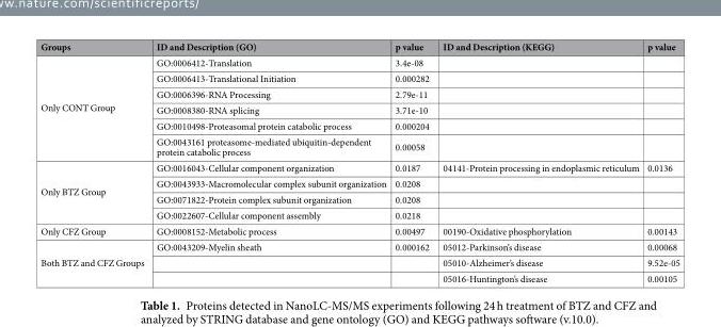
<table><thead><tr><td>Groups</td><td>ID and Description (GO)</td><td>p value</td><td>ID and Description (KEGG)</td><td>p value</td></tr></thead><tbody><tr><td rowspan="6">Only CONT Group</td><td>GO:0006412-Translation</td><td>3.4e-08</td><td></td><td></td></tr><tr><td>GO:0006413-Translational Initiation</td><td>0.000282</td><td></td><td></td></tr><tr><td>GO:0006396-RNA Processing</td><td>2.79e-11</td><td></td><td></td></tr><tr><td>GO:0008380-RNA splicing</td><td>3.71e-10</td><td></td><td></td></tr><tr><td>GO:0010498-Proteasomal protein catabolic process</td><td>0.000204</td><td></td><td></td></tr><tr><td>GO:0043161 proteasome-mediated ubiquitin-dependent protein catabolic process</td><td>0.00058</td><td></td><td></td></tr><tr><td rowspan="4">Only BTZ Group</td><td>GO:0016043-Cellular component organization</td><td>0.0187</td><td>04141-Protein processing in endoplasmic reticulum</td><td>0.0136</td></tr><tr><td>GO:0043933-Macromolecular complex subunit organization</td><td>0.0208</td><td></td><td></td></tr><tr><td>GO:0071822-Protein complex subunit organization</td><td>0.0208</td><td></td><td></td></tr><tr><td>GO:0022607-Cellular component assembly</td><td>0.0218</td><td></td><td></td></tr><tr><td>Only CFZ Group</td><td>GO:0008152-Metabolic process</td><td>0.00497</td><td>00190-Oxidative phosphorylation</td><td>0.00143</td></tr><tr><td rowspan="3">Both BTZ and CFZ Groups</td><td>GO:0043209-Myelin sheath</td><td>0.000162</td><td>05012-Parkinson’s disease</td><td>0.00068</td></tr><tr><td></td><td></td><td>05010-Alzheimer’s disease</td><td>9.52e-05</td></tr><tr><td></td><td></td><td>05016-Huntington’s disease</td><td>0.00105</td></tr></tbody></table>